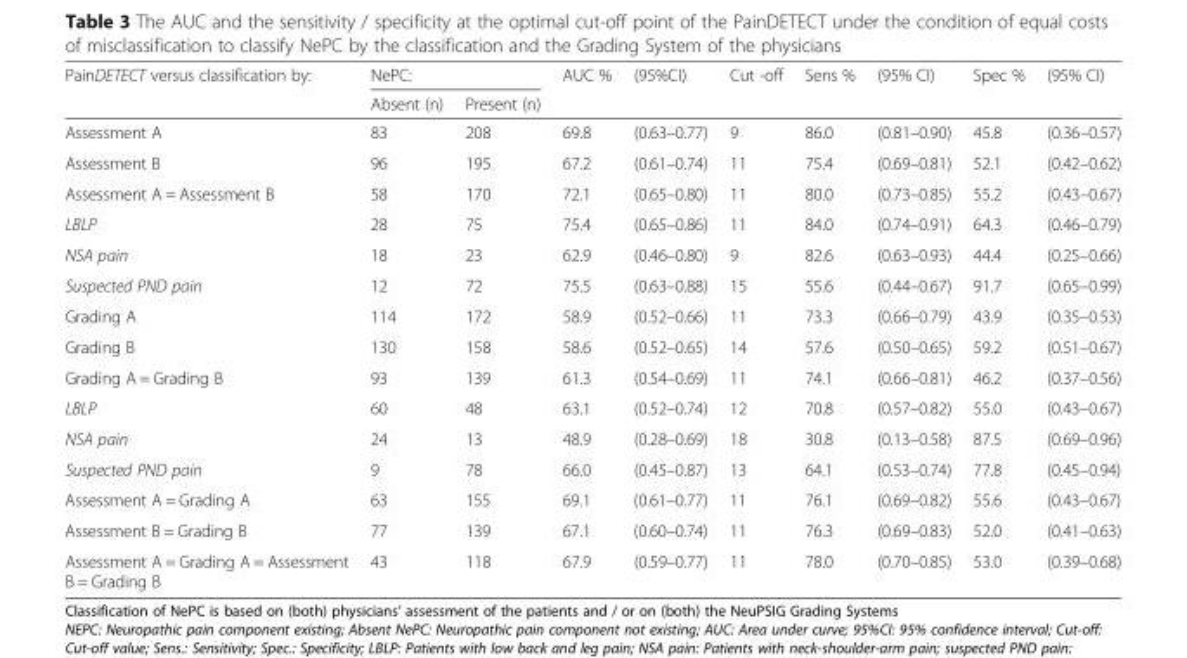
<table><thead><tr><td rowspan="2">PainDETECT versus classification by:</td><td colspan="2">NePC:</td><td rowspan="2">AUC %</td><td rowspan="2">(95%CI)</td><td rowspan="2">Cut -off</td><td rowspan="2">Sens %</td><td rowspan="2">(95% CI)</td><td rowspan="2">Spec %</td><td rowspan="2">(95% CI)</td></tr><tr><td>Absent (n)</td><td>Present (n)</td></tr></thead><tbody><tr><td>Assessment A</td><td>83</td><td>208</td><td>69.8</td><td>(0.63–0.77)</td><td>9</td><td>86.0</td><td>(0.81–0.90)</td><td>45.8</td><td>(0.36–0.57)</td></tr><tr><td>Assessment B</td><td>96</td><td>195</td><td>67.2</td><td>(0.61–0.74)</td><td>11</td><td>75.4</td><td>(0.69–0.81)</td><td>52.1</td><td>(0.42–0.62)</td></tr><tr><td>Assessment A = Assessment B</td><td>58</td><td>170</td><td>72.1</td><td>(0.65–0.80)</td><td>11</td><td>80.0</td><td>(0.73–0.85)</td><td>55.2</td><td>(0.43–0.67)</td></tr><tr><td>LBLP</td><td>28</td><td>75</td><td>75.4</td><td>(0.65–0.86)</td><td>11</td><td>84.0</td><td>(0.74–0.91)</td><td>64.3</td><td>(0.46–0.79)</td></tr><tr><td>NSA pain</td><td>18</td><td>23</td><td>62.9</td><td>(0.46–0.80)</td><td>9</td><td>82.6</td><td>(0.63–0.93)</td><td>44.4</td><td>(0.25–0.66)</td></tr><tr><td>Suspected PND pain</td><td>12</td><td>72</td><td>75.5</td><td>(0.63–0.88)</td><td>15</td><td>55.6</td><td>(0.44–0.67)</td><td>91.7</td><td>(0.65–0.99)</td></tr><tr><td>Grading A</td><td>114</td><td>172</td><td>58.9</td><td>(0.52–0.66)</td><td>11</td><td>73.3</td><td>(0.66–0.79)</td><td>43.9</td><td>(0.35–0.53)</td></tr><tr><td>Grading B</td><td>130</td><td>158</td><td>58.6</td><td>(0.52–0.65)</td><td>14</td><td>57.6</td><td>(0.50–0.65)</td><td>59.2</td><td>(0.51–0.67)</td></tr><tr><td>Grading A = Grading B</td><td>93</td><td>139</td><td>61.3</td><td>(0.54–0.69)</td><td>11</td><td>74.1</td><td>(0.66–0.81)</td><td>46.2</td><td>(0.37–0.56)</td></tr><tr><td>LBLP</td><td>60</td><td>48</td><td>63.1</td><td>(0.52–0.74)</td><td>12</td><td>70.8</td><td>(0.57–0.82)</td><td>55.0</td><td>(0.43–0.67)</td></tr><tr><td>NSA pain</td><td>24</td><td>13</td><td>48.9</td><td>(0.28–0.69)</td><td>18</td><td>30.8</td><td>(0.13–0.58)</td><td>87.5</td><td>(0.69–0.96)</td></tr><tr><td>Suspected PND pain</td><td>9</td><td>78</td><td>66.0</td><td>(0.45–0.87)</td><td>13</td><td>64.1</td><td>(0.53–0.74)</td><td>77.8</td><td>(0.45–0.94)</td></tr><tr><td>Assessment A = Grading A</td><td>63</td><td>155</td><td>69.1</td><td>(0.61–0.77)</td><td>11</td><td>76.1</td><td>(0.69–0.82)</td><td>55.6</td><td>(0.43–0.67)</td></tr><tr><td>Assessment B = Grading B</td><td>77</td><td>139</td><td>67.1</td><td>(0.60–0.74)</td><td>11</td><td>76.3</td><td>(0.69–0.83)</td><td>52.0</td><td>(0.41–0.63)</td></tr><tr><td>Assessment A = Grading A = Assessment B = Grading B</td><td>43</td><td>118</td><td>67.9</td><td>(0.59–0.77)</td><td>11</td><td>78.0</td><td>(0.70–0.85)</td><td>53.0</td><td>(0.39–0.68)</td></tr></tbody></table>